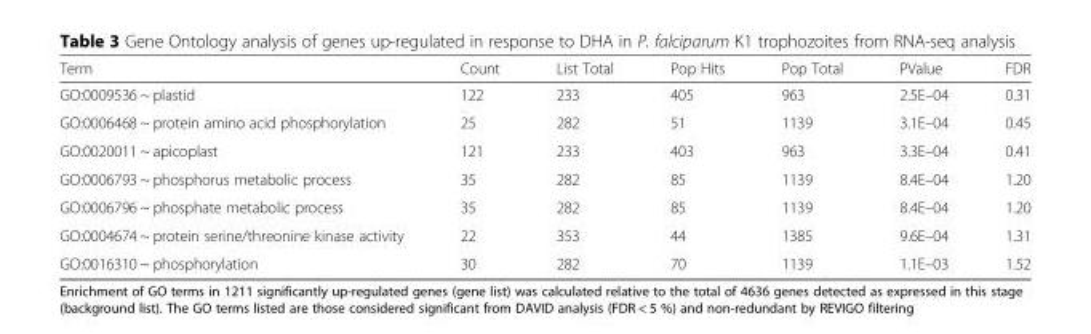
<table><thead><tr><td>Term</td><td>Count</td><td>List Total</td><td>Pop Hits</td><td>Pop Total</td><td>PValue</td><td>FDR</td></tr></thead><tbody><tr><td>GO:0009536 ~ plastid</td><td>122</td><td>233</td><td>405</td><td>963</td><td>2.5E–04</td><td>0.31</td></tr><tr><td>GO:0006468 ~ protein amino acid phosphorylation</td><td>25</td><td>282</td><td>51</td><td>1139</td><td>3.1E–04</td><td>0.45</td></tr><tr><td>GO:0020011 ~ apicoplast</td><td>121</td><td>233</td><td>403</td><td>963</td><td>3.3E–04</td><td>0.41</td></tr><tr><td>GO:0006793 ~ phosphorus metabolic process</td><td>35</td><td>282</td><td>85</td><td>1139</td><td>8.4E–04</td><td>1.20</td></tr><tr><td>GO:0006796 ~ phosphate metabolic process</td><td>35</td><td>282</td><td>85</td><td>1139</td><td>8.4E–04</td><td>1.20</td></tr><tr><td>GO:0004674 ~ protein serine/threonine kinase activity</td><td>22</td><td>353</td><td>44</td><td>1385</td><td>9.6E–04</td><td>1.31</td></tr><tr><td>GO:0016310 ~ phosphorylation</td><td>30</td><td>282</td><td>70</td><td>1139</td><td>1.1E–03</td><td>1.52</td></tr></tbody></table>